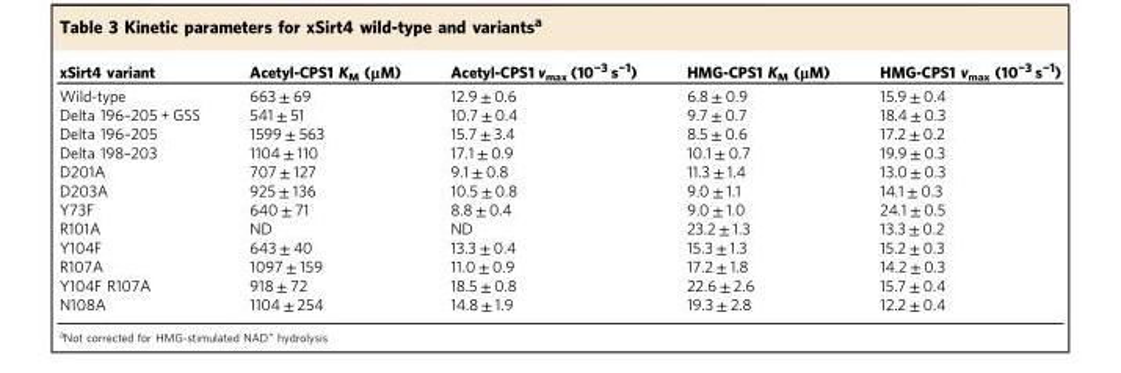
<table><thead><tr><td>xSirt4 variant</td><td>Acetyl-CPS1 K<sub>M</sub> (μM)</td><td>Acetyl-CPS1 v<sub>max</sub> (10<sup>−3</sup> s<sup>−1</sup>)</td><td>HMG-CPS1 K<sub>M</sub> (μM)</td><td>HMG-CPS1 v<sub>max</sub> (10<sup>−3</sup> s<sup>−1</sup>)</td></tr></thead><tbody><tr><td>Wild-type</td><td>663 ± 69</td><td>12.9 ± 0.6</td><td>6.8 ± 0.9</td><td>15.9 ± 0.4</td></tr><tr><td>Delta 196–205 + GSS</td><td>541 ± 51</td><td>10.7 ± 0.4</td><td>9.7 ± 0.7</td><td>18.4 ± 0.3</td></tr><tr><td>Delta 196–205</td><td>1599 ± 563</td><td>15.7 ± 3.4</td><td>8.5 ± 0.6</td><td>17.2 ± 0.2</td></tr><tr><td>Delta 198–203</td><td>1104 ± 110</td><td>17.1 ± 0.9</td><td>10.1 ± 0.7</td><td>19.9 ± 0.3</td></tr><tr><td>D201A</td><td>707 ± 127</td><td>9.1 ± 0.8</td><td>11.3 ± 1.4</td><td>13.0 ± 0.3</td></tr><tr><td>D203A</td><td>925 ± 136</td><td>10.5 ± 0.8</td><td>9.0 ± 1.1</td><td>14.1 ± 0.3</td></tr><tr><td>Y73F</td><td>640 ± 71</td><td>8.8 ± 0.4</td><td>9.0 ± 1.0</td><td>24.1 ± 0.5</td></tr><tr><td>R101A</td><td>ND</td><td>ND</td><td>23.2 ± 1.3</td><td>13.3 ± 0.2</td></tr><tr><td>Y104F</td><td>643 ± 40</td><td>13.3 ± 0.4</td><td>15.3 ± 1.3</td><td>15.2 ± 0.3</td></tr><tr><td>R107A</td><td>1097 ± 159</td><td>11.0 ± 0.9</td><td>17.2 ± 1.8</td><td>14.2 ± 0.3</td></tr><tr><td>Y104F R107A</td><td>918 ± 72</td><td>18.5 ± 0.8</td><td>22.6 ± 2.6</td><td>15.7 ± 0.4</td></tr><tr><td>N108A</td><td>1104 ± 254</td><td>14.8 ± 1.9</td><td>19.3 ± 2.8</td><td>12.2 ± 0.4</td></tr></tbody></table>